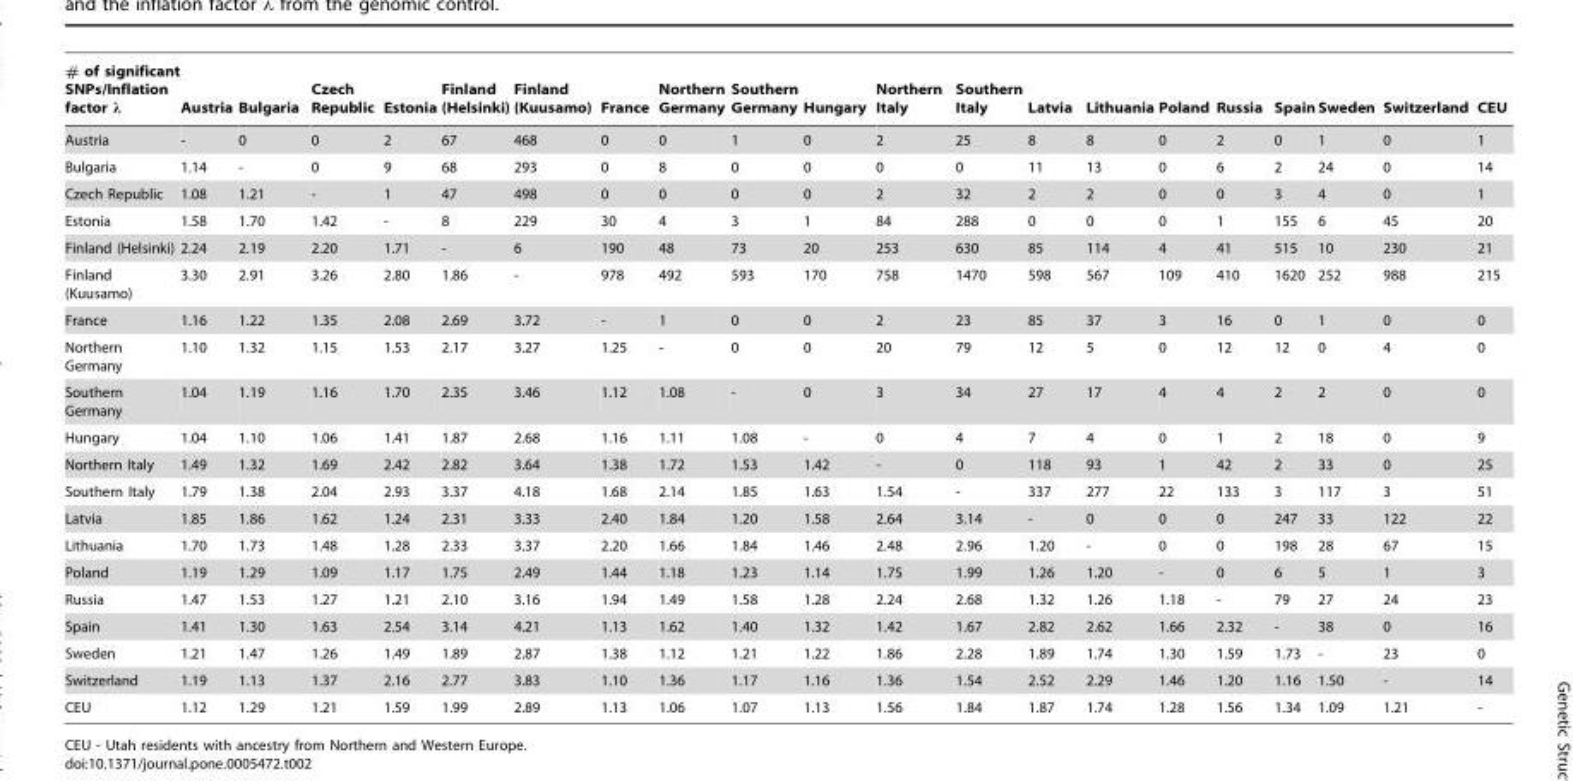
<table><thead><tr><td># of significant SNPs/Inflation factor λ</td><td>Austria</td><td>Bulgaria</td><td>Czech Republic</td><td>Estonia</td><td>Finland (Helsinki)</td><td>Finland (Kuusamo)</td><td>France</td><td>Northern Germany</td><td>Southern Germany</td><td>Hungary</td><td>Northern Italy</td><td>Southern Italy</td><td>Latvia</td><td>Lithuania</td><td>Poland</td><td>Russia</td><td>Spain</td><td>Sweden</td><td>Switzerland</td><td>CEU</td></tr></thead><tbody><tr><td>Austria</td><td>-</td><td>0</td><td>0</td><td>2</td><td>67</td><td>468</td><td>0</td><td>0</td><td>1</td><td>0</td><td>2</td><td>25</td><td>8</td><td>8</td><td>0</td><td>2</td><td>0</td><td>1</td><td>0</td><td>1</td></tr><tr><td>Bulgaria</td><td>1.14</td><td>-</td><td>0</td><td>9</td><td>68</td><td>293</td><td>0</td><td>8</td><td>0</td><td>0</td><td>0</td><td>0</td><td>11</td><td>13</td><td>0</td><td>6</td><td>2</td><td>24</td><td>0</td><td>14</td></tr><tr><td>Czech Republic</td><td>1.08</td><td>1.21</td><td>-</td><td>1</td><td>47</td><td>498</td><td>0</td><td>0</td><td>0</td><td>0</td><td>2</td><td>32</td><td>2</td><td>2</td><td>0</td><td>0</td><td>3</td><td>4</td><td>0</td><td>1</td></tr><tr><td>Estonia</td><td>1.58</td><td>1.70</td><td>1.42</td><td>-</td><td>8</td><td>229</td><td>30</td><td>4</td><td>3</td><td>1</td><td>84</td><td>288</td><td>0</td><td>0</td><td>0</td><td>1</td><td>155</td><td>6</td><td>45</td><td>20</td></tr><tr><td>Finland (Helsinki)</td><td>2.24</td><td>2.19</td><td>2.20</td><td>1.71</td><td>-</td><td>6</td><td>190</td><td>48</td><td>73</td><td>20</td><td>253</td><td>630</td><td>85</td><td>114</td><td>4</td><td>41</td><td>515</td><td>10</td><td>230</td><td>21</td></tr><tr><td>Finland (Kuusamo)</td><td>3.30</td><td>2.91</td><td>3.26</td><td>2.80</td><td>1.86</td><td>-</td><td>978</td><td>492</td><td>593</td><td>170</td><td>758</td><td>1470</td><td>598</td><td>567</td><td>109</td><td>410</td><td>1620</td><td>252</td><td>988</td><td>215</td></tr><tr><td>France</td><td>1.16</td><td>1.22</td><td>1.35</td><td>2.08</td><td>2.69</td><td>3.72</td><td>-</td><td>1</td><td>0</td><td>0</td><td>2</td><td>23</td><td>85</td><td>37</td><td>3</td><td>16</td><td>0</td><td>1</td><td>0</td><td>0</td></tr><tr><td>Northern Germany</td><td>1.10</td><td>1.32</td><td>1.15</td><td>1.53</td><td>2.17</td><td>3.27</td><td>1.25</td><td>-</td><td>0</td><td>0</td><td>20</td><td>79</td><td>12</td><td>5</td><td>0</td><td>12</td><td>12</td><td>0</td><td>4</td><td>0</td></tr><tr><td>Southern Germany</td><td>1.04</td><td>1.19</td><td>1.16</td><td>1.70</td><td>2.35</td><td>3.46</td><td>1.12</td><td>1.08</td><td>-</td><td>0</td><td>3</td><td>34</td><td>27</td><td>17</td><td>4</td><td>4</td><td>2</td><td>2</td><td>0</td><td>0</td></tr><tr><td>Hungary</td><td>1.04</td><td>1.10</td><td>1.06</td><td>1.41</td><td>1.87</td><td>2.68</td><td>1.16</td><td>1.11</td><td>1.08</td><td>-</td><td>0</td><td>4</td><td>7</td><td>4</td><td>0</td><td>1</td><td>2</td><td>18</td><td>0</td><td>9</td></tr><tr><td>Northern Italy</td><td>1.49</td><td>1.32</td><td>1.69</td><td>2.42</td><td>2.82</td><td>3.64</td><td>1.38</td><td>1.72</td><td>1.53</td><td>1.42</td><td>-</td><td>0</td><td>118</td><td>93</td><td>1</td><td>42</td><td>2</td><td>33</td><td>0</td><td>25</td></tr><tr><td>Southern Italy</td><td>1.79</td><td>1.38</td><td>2.04</td><td>2.93</td><td>3.37</td><td>4.18</td><td>1.68</td><td>2.14</td><td>1.85</td><td>1.63</td><td>1.54</td><td>-</td><td>337</td><td>277</td><td>22</td><td>133</td><td>3</td><td>117</td><td>3</td><td>51</td></tr><tr><td>Latvia</td><td>1.85</td><td>1.86</td><td>1.62</td><td>1.24</td><td>2.31</td><td>3.33</td><td>2.40</td><td>1.84</td><td>1.20</td><td>1.58</td><td>2.64</td><td>3.14</td><td>-</td><td>0</td><td>0</td><td>0</td><td>247</td><td>33</td><td>122</td><td>22</td></tr><tr><td>Lithuania</td><td>1.70</td><td>1.73</td><td>1.48</td><td>1.28</td><td>2.33</td><td>3.37</td><td>2.20</td><td>1.66</td><td>1.84</td><td>1.46</td><td>2.48</td><td>2.96</td><td>1.20</td><td>-</td><td>0</td><td>0</td><td>198</td><td>28</td><td>67</td><td>15</td></tr><tr><td>Poland</td><td>1.19</td><td>1.29</td><td>1.09</td><td>1.17</td><td>1.75</td><td>2.49</td><td>1.44</td><td>1.18</td><td>1.23</td><td>1.14</td><td>1.75</td><td>1.99</td><td>1.26</td><td>1.20</td><td>-</td><td>0</td><td>6</td><td>5</td><td>1</td><td>3</td></tr><tr><td>Russia</td><td>1.47</td><td>1.53</td><td>1.27</td><td>1.21</td><td>2.10</td><td>3.16</td><td>1.94</td><td>1.49</td><td>1.58</td><td>1.28</td><td>2.24</td><td>2.68</td><td>1.32</td><td>1.26</td><td>1.18</td><td>-</td><td>79</td><td>27</td><td>24</td><td>23</td></tr><tr><td>Spain</td><td>1.41</td><td>1.30</td><td>1.63</td><td>2.54</td><td>3.14</td><td>4.21</td><td>1.13</td><td>1.62</td><td>1.40</td><td>1.32</td><td>1.42</td><td>1.67</td><td>2.82</td><td>2.62</td><td>1.66</td><td>2.32</td><td>-</td><td>38</td><td>0</td><td>16</td></tr><tr><td>Sweden</td><td>1.21</td><td>1.47</td><td>1.26</td><td>1.49</td><td>1.89</td><td>2.87</td><td>1.38</td><td>1.12</td><td>1.21</td><td>1.22</td><td>1.86</td><td>2.28</td><td>1.89</td><td>1.74</td><td>1.30</td><td>1.59</td><td>1.73</td><td>-</td><td>23</td><td>0</td></tr><tr><td>Switzerland</td><td>1.19</td><td>1.13</td><td>1.37</td><td>2.16</td><td>2.77</td><td>3.83</td><td>1.10</td><td>1.36</td><td>1.17</td><td>1.16</td><td>1.36</td><td>1.54</td><td>2.52</td><td>2.29</td><td>1.46</td><td>1.20</td><td>1.16</td><td>1.50</td><td>-</td><td>14</td></tr><tr><td>CEU</td><td>1.12</td><td>1.29</td><td>1.21</td><td>1.59</td><td>1.99</td><td>2.89</td><td>1.13</td><td>1.06</td><td>1.07</td><td>1.13</td><td>1.56</td><td>1.84</td><td>1.87</td><td>1.74</td><td>1.28</td><td>1.56</td><td>1.34</td><td>1.09</td><td>1.21</td><td>-</td></tr></tbody></table>